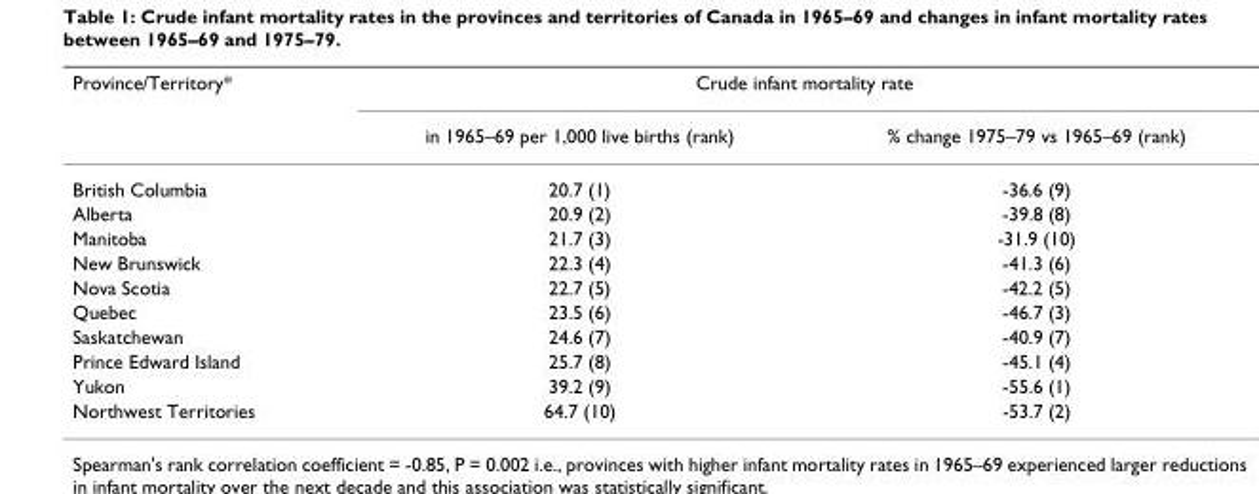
<table><thead><tr><td rowspan="2">Province/Territory*</td><td colspan="2">Crude infant mortality rate</td></tr><tr><td>in 1965–69 per 1,000 live births (rank)</td><td>% change 1975–79 vs 1965–69 (rank)</td></tr></thead><tbody><tr><td>British Columbia</td><td>20.7 (1)</td><td>-36.6 (9)</td></tr><tr><td>Alberta</td><td>20.9 (2)</td><td>-39.8 (8)</td></tr><tr><td>Manitoba</td><td>21.7 (3)</td><td>-31.9 (10)</td></tr><tr><td>New Brunswick</td><td>22.3 (4)</td><td>-41.3 (6)</td></tr><tr><td>Nova Scotia</td><td>22.7 (5)</td><td>-42.2 (5)</td></tr><tr><td>Quebec</td><td>23.5 (6)</td><td>-46.7 (3)</td></tr><tr><td>Saskatchewan</td><td>24.6 (7)</td><td>-40.9 (7)</td></tr><tr><td>Prince Edward Island</td><td>25.7 (8)</td><td>-45.1 (4)</td></tr><tr><td>Yukon</td><td>39.2 (9)</td><td>-55.6 (1)</td></tr><tr><td>Northwest Territories</td><td>64.7 (10)</td><td>-53.7 (2)</td></tr></tbody></table>